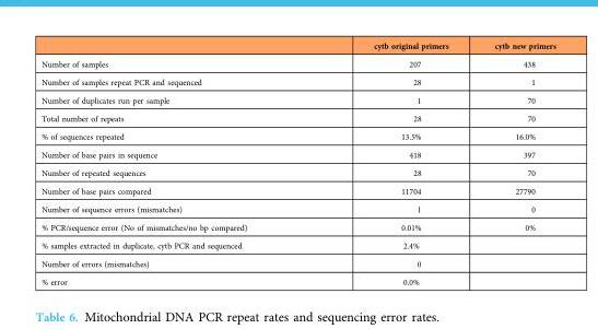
<table><thead><tr><td></td><td>cytb original primers</td><td>cytb new primers</td></tr></thead><tbody><tr><td>Number of samples</td><td>207</td><td>438</td></tr><tr><td>Number of samples repeat PCR and sequenced</td><td>28</td><td>1</td></tr><tr><td>Number of duplicates run per sample</td><td>1</td><td>70</td></tr><tr><td>Total number of repeats</td><td>28</td><td>70</td></tr><tr><td>% of sequences repeated</td><td>13.5%</td><td>16.0%</td></tr><tr><td>Number of base pairs in sequence</td><td>418</td><td>397</td></tr><tr><td>Number of repeated sequences</td><td>28</td><td>70</td></tr><tr><td>Number of base pairs compared</td><td>11704</td><td>27790</td></tr><tr><td>Number of sequence errors (mismatches)</td><td>1</td><td>0</td></tr><tr><td>% PCR/sequence error (No of mismatches/no bp compared)</td><td>0.01%</td><td>0%</td></tr><tr><td>% samples extracted in duplicate, cytb PCR and sequenced</td><td>2.4%</td><td></td></tr><tr><td>Number of errors (mismatches)</td><td>0</td><td></td></tr><tr><td>% error</td><td>0.0%</td><td></td></tr></tbody></table>